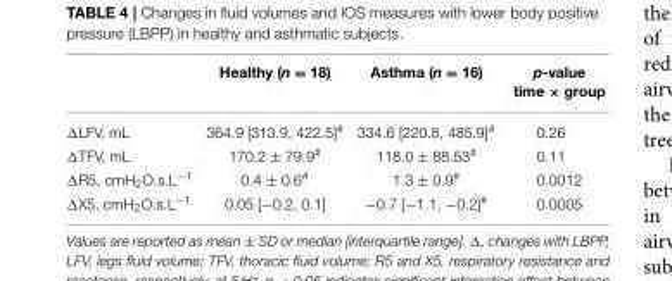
<table><thead><tr><td></td><td>Healthy (n = 18)</td><td>Asthma (n = 16)</td><td>p-value time × group</td></tr></thead><tbody><tr><td>ΔLFV, mL</td><td>364.9 [313.9, 422.5]<sup>#</sup></td><td>334.6 [220.8, 485.9]<sup>#</sup></td><td>0.26</td></tr><tr><td>ΔTFV, mL</td><td>170.2 ± 79.9<sup>#</sup></td><td>118.0 ± 88.53<sup>#</sup></td><td>0.11</td></tr><tr><td>ΔR5, cmH<sub>2</sub>O.s.L<sup>−1</sup></td><td>0.4 ± 0.6<sup>#</sup></td><td>1.3 ± 0.9<sup>#</sup></td><td>0.0012</td></tr><tr><td>ΔX5, cmH<sub>2</sub>O.s.L<sup>−1</sup></td><td>0.05 [−0.2, 0.1]</td><td>−0.7 [−1.1, −0.2]<sup>#</sup></td><td>0.0005</td></tr></tbody></table>